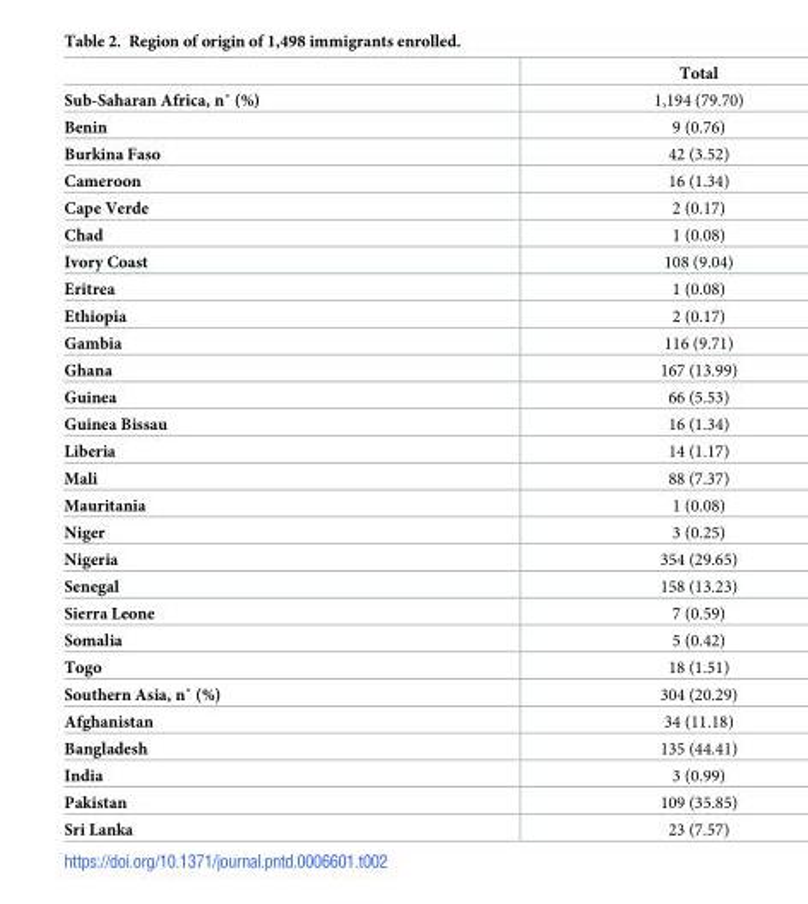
<table><thead><tr><td></td><td>Total</td></tr></thead><tbody><tr><td>Sub-Saharan Africa, n˚ (%)</td><td>1,194 (79.70)</td></tr><tr><td>Benin</td><td>9 (0.76)</td></tr><tr><td>Burkina Faso</td><td>42 (3.52)</td></tr><tr><td>Cameroon</td><td>16 (1.34)</td></tr><tr><td>Cape Verde</td><td>2 (0.17)</td></tr><tr><td>Chad</td><td>1 (0.08)</td></tr><tr><td>Ivory Coast</td><td>108 (9.04)</td></tr><tr><td>Eritrea</td><td>1 (0.08)</td></tr><tr><td>Ethiopia</td><td>2 (0.17)</td></tr><tr><td>Gambia</td><td>116 (9.71)</td></tr><tr><td>Ghana</td><td>167 (13.99)</td></tr><tr><td>Guinea</td><td>66 (5.53)</td></tr><tr><td>Guinea Bissau</td><td>16 (1.34)</td></tr><tr><td>Liberia</td><td>14 (1.17)</td></tr><tr><td>Mali</td><td>88 (7.37)</td></tr><tr><td>Mauritania</td><td>1 (0.08)</td></tr><tr><td>Niger</td><td>3 (0.25)</td></tr><tr><td>Nigeria</td><td>354 (29.65)</td></tr><tr><td>Senegal</td><td>158 (13.23)</td></tr><tr><td>Sierra Leone</td><td>7 (0.59)</td></tr><tr><td>Somalia</td><td>5 (0.42)</td></tr><tr><td>Togo</td><td>18 (1.51)</td></tr><tr><td>Southern Asia, n˚ (%)</td><td>304 (20.29)</td></tr><tr><td>Afghanistan</td><td>34 (11.18)</td></tr><tr><td>Bangladesh</td><td>135 (44.41)</td></tr><tr><td>India</td><td>3 (0.99)</td></tr><tr><td>Pakistan</td><td>109 (35.85)</td></tr><tr><td>Sri Lanka</td><td>23 (7.57)</td></tr></tbody></table>